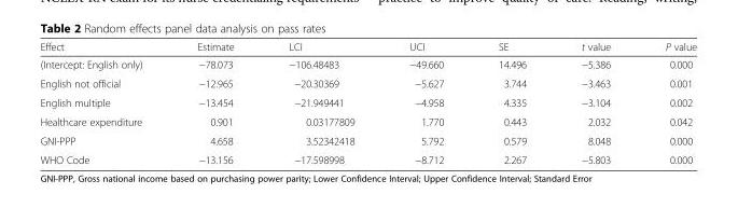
<table><thead><tr><td>Effect</td><td>Estimate</td><td>LCI</td><td>UCI</td><td>SE</td><td>t value</td><td>P value</td></tr></thead><tbody><tr><td>(Intercept: English only)</td><td>−78.073</td><td>−106.48483</td><td>−49.660</td><td>14.496</td><td>−5.386</td><td>0.000</td></tr><tr><td>English not official</td><td>−12.965</td><td>−20.30369</td><td>−5.627</td><td>3.744</td><td>−3.463</td><td>0.001</td></tr><tr><td>English multiple</td><td>−13.454</td><td>−21.949441</td><td>−4.958</td><td>4.335</td><td>−3.104</td><td>0.002</td></tr><tr><td>Healthcare expenditure</td><td>0.901</td><td>0.03177809</td><td>1.770</td><td>0.443</td><td>2.032</td><td>0.042</td></tr><tr><td>GNI-PPP</td><td>4.658</td><td>3.52342418</td><td>5.792</td><td>0.579</td><td>8.048</td><td>0.000</td></tr><tr><td>WHO Code</td><td>−13.156</td><td>−17.598998</td><td>−8.712</td><td>2.267</td><td>−5.803</td><td>0.000</td></tr></tbody></table>